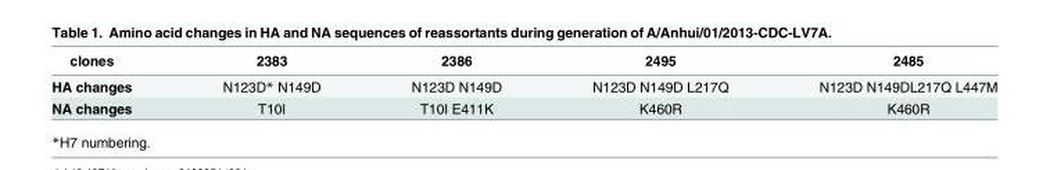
<table><thead><tr><td>clones</td><td>2383</td><td>2386</td><td>2495</td><td>2485</td></tr></thead><tbody><tr><td>HA changes</td><td>N123D* N149D</td><td>N123D N149D</td><td>N123D N149D L217Q</td><td>N123D N149DL217Q L447M</td></tr><tr><td>NA changes</td><td>T10I</td><td>T10I E411K</td><td>K460R</td><td>K460R</td></tr></tbody></table>